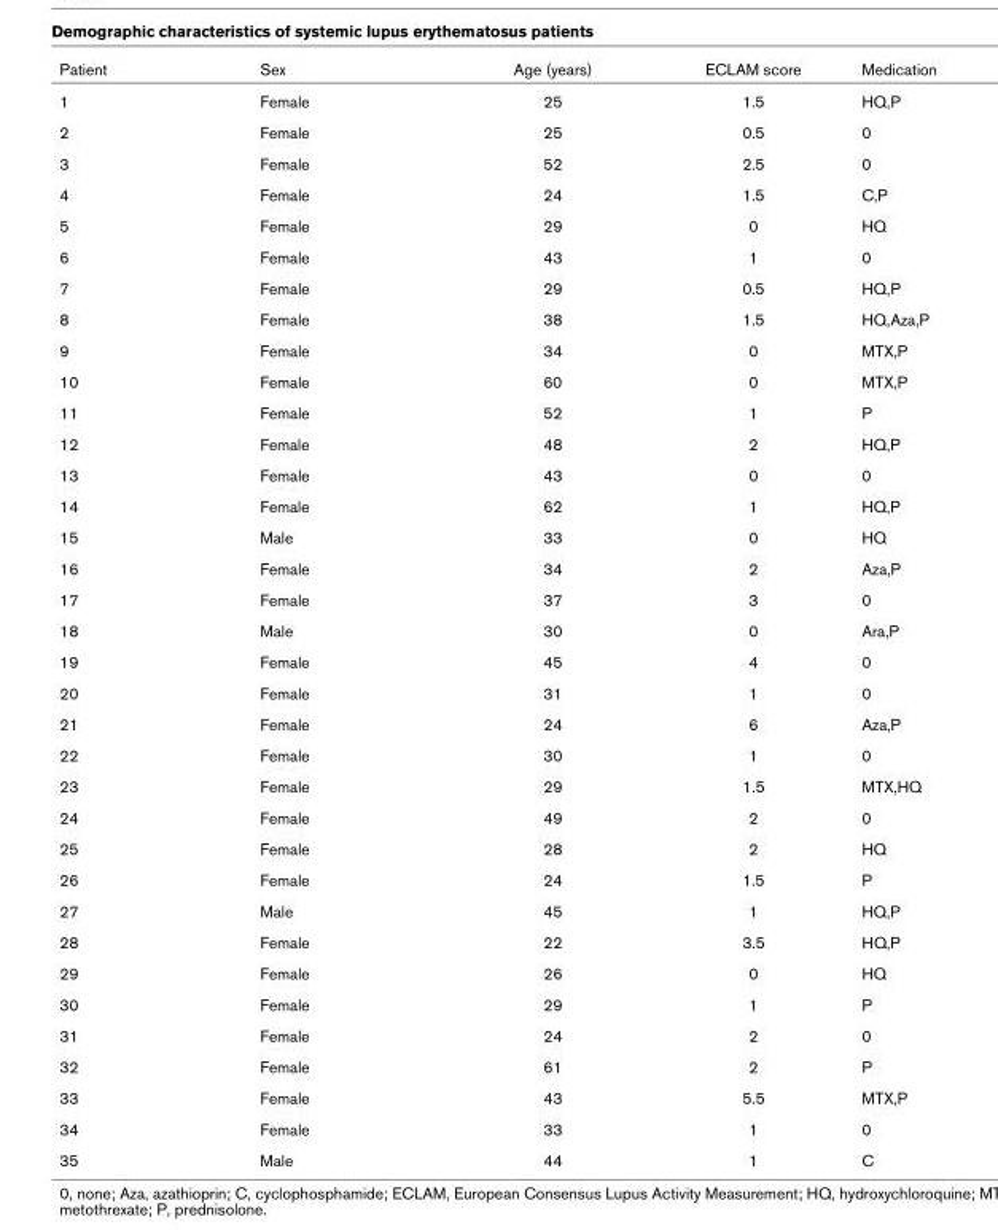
<table><thead><tr><td>Patient</td><td>Sex</td><td>Age (years)</td><td>ECLAM score</td><td>Medication</td></tr></thead><tbody><tr><td>1</td><td>Female</td><td>25</td><td>1.5</td><td>HQ,P</td></tr><tr><td>2</td><td>Female</td><td>25</td><td>0.5</td><td>0</td></tr><tr><td>3</td><td>Female</td><td>52</td><td>2.5</td><td>0</td></tr><tr><td>4</td><td>Female</td><td>24</td><td>1.5</td><td>C,P</td></tr><tr><td>5</td><td>Female</td><td>29</td><td>0</td><td>HQ</td></tr><tr><td>6</td><td>Female</td><td>43</td><td>1</td><td>0</td></tr><tr><td>7</td><td>Female</td><td>29</td><td>0.5</td><td>HQ,P</td></tr><tr><td>8</td><td>Female</td><td>38</td><td>1.5</td><td>HQ,Aza,P</td></tr><tr><td>9</td><td>Female</td><td>34</td><td>0</td><td>MTX,P</td></tr><tr><td>10</td><td>Female</td><td>60</td><td>0</td><td>MTX,P</td></tr><tr><td>11</td><td>Female</td><td>52</td><td>1</td><td>P</td></tr><tr><td>12</td><td>Female</td><td>48</td><td>2</td><td>HQ,P</td></tr><tr><td>13</td><td>Female</td><td>43</td><td>0</td><td>0</td></tr><tr><td>14</td><td>Female</td><td>62</td><td>1</td><td>HQ,P</td></tr><tr><td>15</td><td>Male</td><td>33</td><td>0</td><td>HQ</td></tr><tr><td>16</td><td>Female</td><td>34</td><td>2</td><td>Aza,P</td></tr><tr><td>17</td><td>Female</td><td>37</td><td>3</td><td>0</td></tr><tr><td>18</td><td>Male</td><td>30</td><td>0</td><td>Ara,P</td></tr><tr><td>19</td><td>Female</td><td>45</td><td>4</td><td>0</td></tr><tr><td>20</td><td>Female</td><td>31</td><td>1</td><td>0</td></tr><tr><td>21</td><td>Female</td><td>24</td><td>6</td><td>Aza,P</td></tr><tr><td>22</td><td>Female</td><td>30</td><td>1</td><td>0</td></tr><tr><td>23</td><td>Female</td><td>29</td><td>1.5</td><td>MTX,HQ</td></tr><tr><td>24</td><td>Female</td><td>49</td><td>2</td><td>0</td></tr><tr><td>25</td><td>Female</td><td>28</td><td>2</td><td>HQ</td></tr><tr><td>26</td><td>Female</td><td>24</td><td>1.5</td><td>P</td></tr><tr><td>27</td><td>Male</td><td>45</td><td>1</td><td>HQ,P</td></tr><tr><td>28</td><td>Female</td><td>22</td><td>3.5</td><td>HQ,P</td></tr><tr><td>29</td><td>Female</td><td>26</td><td>0</td><td>HQ</td></tr><tr><td>30</td><td>Female</td><td>29</td><td>1</td><td>P</td></tr><tr><td>31</td><td>Female</td><td>24</td><td>2</td><td>0</td></tr><tr><td>32</td><td>Female</td><td>61</td><td>2</td><td>P</td></tr><tr><td>33</td><td>Female</td><td>43</td><td>5.5</td><td>MTX,P</td></tr><tr><td>34</td><td>Female</td><td>33</td><td>1</td><td>0</td></tr><tr><td>35</td><td>Male</td><td>44</td><td>1</td><td>C</td></tr></tbody></table>